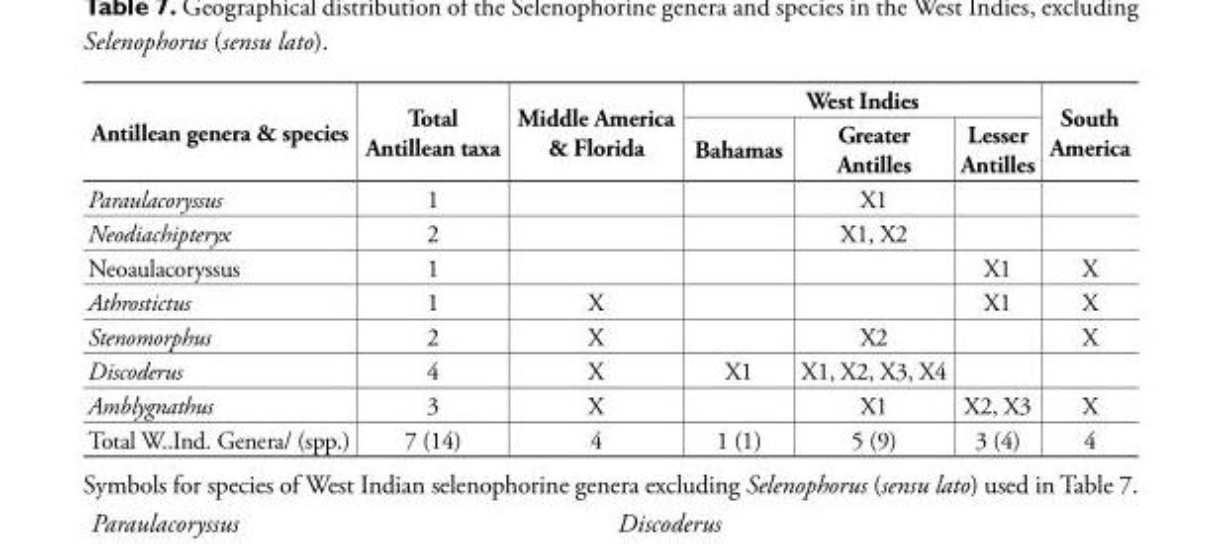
<table><thead><tr><td rowspan="2">Antillean genera &amp; species</td><td rowspan="2">Total Antillean taxa</td><td rowspan="2">Middle America &amp; Florida</td><td colspan="3">West Indies</td><td rowspan="2">South America</td></tr><tr><td>Bahamas</td><td>Greater Antilles</td><td>Lesser Antilles</td></tr></thead><tbody><tr><td>Paraulacoryssus</td><td>1</td><td></td><td></td><td>X1</td><td></td><td></td></tr><tr><td>Neodiachipteryx</td><td>2</td><td></td><td></td><td>X1, X2</td><td></td><td></td></tr><tr><td>Neoaulacoryssus</td><td>1</td><td></td><td></td><td></td><td>X1</td><td>X</td></tr><tr><td>Athrostictus</td><td>1</td><td>X</td><td></td><td></td><td>X1</td><td>X</td></tr><tr><td>Stenomorphus</td><td>2</td><td>X</td><td></td><td>X2</td><td></td><td>X</td></tr><tr><td>Discoderus</td><td>4</td><td>X</td><td>X1</td><td>X1, X2, X3, X4</td><td></td><td></td></tr><tr><td>Amblygnathus</td><td>3</td><td>X</td><td></td><td>X1</td><td>X2, X3</td><td>X</td></tr><tr><td>Total W..Ind. Genera/ (spp.)</td><td>7 (14)</td><td>4</td><td>1 (1)</td><td>5 (9)</td><td>3 (4)</td><td>4</td></tr></tbody></table>